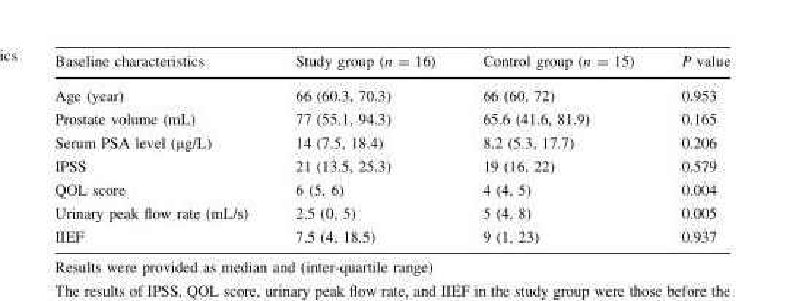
<table><thead><tr><td>Baseline characteristics</td><td>Study group (n = 16)</td><td>Control group (n = 15)</td><td>P value</td></tr></thead><tbody><tr><td>Age (year)</td><td>66 (60.3, 70.3)</td><td>66 (60, 72)</td><td>0.953</td></tr><tr><td>Prostate volume (mL)</td><td>77 (55.1, 94.3)</td><td>65.6 (41.6, 81.9)</td><td>0.165</td></tr><tr><td>Serum PSA level (μg/L)</td><td>14 (7.5, 18.4)</td><td>8.2 (5.3, 17.7)</td><td>0.206</td></tr><tr><td>IPSS</td><td>21 (13.5, 25.3)</td><td>19 (16, 22)</td><td>0.579</td></tr><tr><td>QOL score</td><td>6 (5, 6)</td><td>4 (4, 5)</td><td>0.004</td></tr><tr><td>Urinary peak flow rate (mL/s)</td><td>2.5 (0, 5)</td><td>5 (4, 8)</td><td>0.005</td></tr><tr><td>IIEF</td><td>7.5 (4, 18.5)</td><td>9 (1, 23)</td><td>0.937</td></tr></tbody></table>